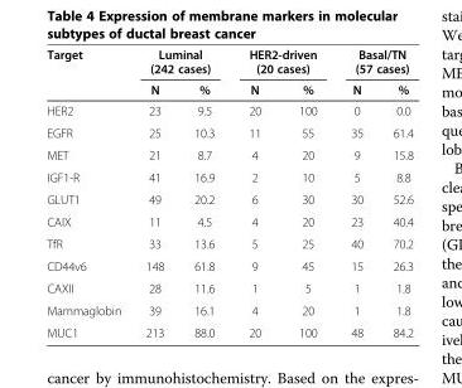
<table><thead><tr><td rowspan="2">Target</td><td colspan="2">Luminal (242 cases)</td><td colspan="2">HER2-driven (20 cases)</td><td colspan="2">Basal/TN (57 cases)</td></tr><tr><td>N</td><td>%</td><td>N</td><td>%</td><td>N</td><td>%</td></tr></thead><tbody><tr><td>HER2</td><td>23</td><td>9.5</td><td>20</td><td>100</td><td>0</td><td>0.0</td></tr><tr><td>EGFR</td><td>25</td><td>10.3</td><td>11</td><td>55</td><td>35</td><td>61.4</td></tr><tr><td>MET</td><td>21</td><td>8.7</td><td>4</td><td>20</td><td>9</td><td>15.8</td></tr><tr><td>IGF1-R</td><td>41</td><td>16.9</td><td>2</td><td>10</td><td>5</td><td>8.8</td></tr><tr><td>GLUT1</td><td>49</td><td>20.2</td><td>6</td><td>30</td><td>30</td><td>52.6</td></tr><tr><td>CAIX</td><td>11</td><td>4.5</td><td>4</td><td>20</td><td>23</td><td>40.4</td></tr><tr><td>TfR</td><td>33</td><td>13.6</td><td>5</td><td>25</td><td>40</td><td>70.2</td></tr><tr><td>CD44v6</td><td>148</td><td>61.8</td><td>9</td><td>45</td><td>15</td><td>26.3</td></tr><tr><td>CAXII</td><td>28</td><td>11.6</td><td>1</td><td>5</td><td>1</td><td>1.8</td></tr><tr><td>Mammaglobin</td><td>39</td><td>16.1</td><td>4</td><td>20</td><td>1</td><td>1.8</td></tr><tr><td>MUC1</td><td>213</td><td>88.0</td><td>20</td><td>100</td><td>48</td><td>84.2</td></tr></tbody></table>